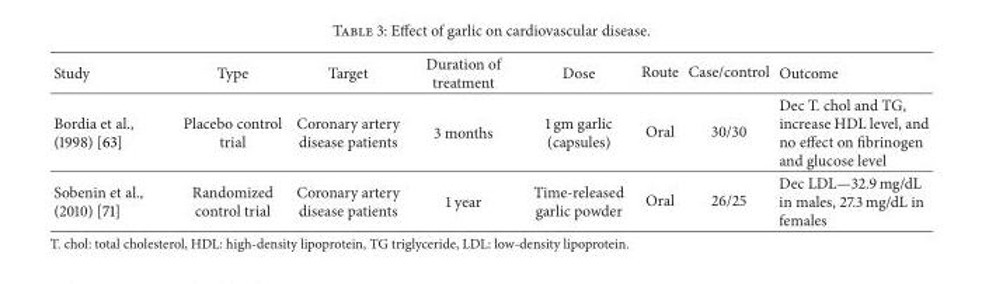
<table><thead><tr><td>Study</td><td>Type</td><td>Target</td><td>Duration of treatment</td><td>Dose</td><td>Route</td><td>Case/control</td><td>Outcome</td></tr></thead><tbody><tr><td>Bordia et al., (1998) [63]</td><td>Placebo control trial</td><td>Coronary artery disease patients</td><td>3 months</td><td>1 gm garlic (capsules)</td><td>Oral</td><td>30/30</td><td>Dec T. chol and TG, increase HDL level, and no effect on fibrinogen and glucose level</td></tr><tr><td>Sobenin et al., (2010) [71]</td><td>Randomized control trial</td><td>Coronary artery disease patients</td><td>1 year</td><td>Time-released garlic powder</td><td>Oral</td><td>26/25</td><td>Dec LDL—32.9 mg/dL in males, 27.3 mg/dL in females</td></tr></tbody></table>